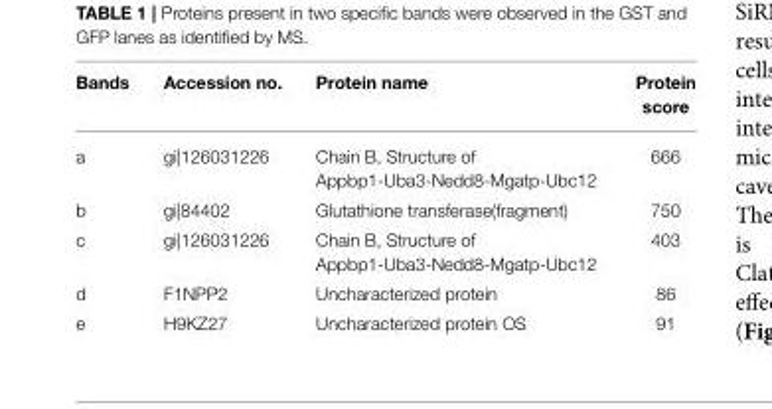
<table><thead><tr><td>Bands</td><td>Accession no.</td><td>Protein name</td><td>Protein score</td></tr></thead><tbody><tr><td>a</td><td>gi|126031226</td><td>Chain B, Structure of Appbp1-Uba3-Nedd8-Mgatp-Ubc12</td><td>666</td></tr><tr><td>b</td><td>gi|84402</td><td>Glutathione transferase(fragment)</td><td>750</td></tr><tr><td>c</td><td>gi|126031226</td><td>Chain B, Structure of Appbp1-Uba3-Nedd8-Mgatp-Ubc12</td><td>403</td></tr><tr><td>d</td><td>F1NPP2</td><td>Uncharacterized protein</td><td>86</td></tr><tr><td>e</td><td>H9KZ27</td><td>Uncharacterized protein OS</td><td>91</td></tr></tbody></table>